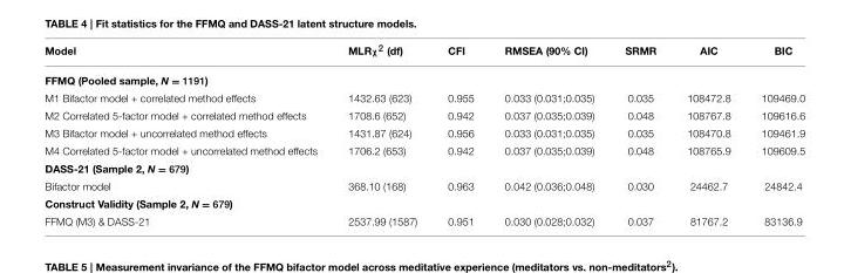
<table><thead><tr><td>Model</td><td>MLRχ<sup>2</sup> (df)</td><td>CFI</td><td>RMSEA (90% CI)</td><td>SRMR</td><td>AIC</td><td>BIC</td></tr></thead><tbody><tr><td colspan="7">FFMQ (Pooled sample, N = 1191)</td></tr><tr><td>M1 Bifactor model + correlated method effects</td><td>1432.63 (623)</td><td>0.955</td><td>0.033 (0.031;0.035)</td><td>0.035</td><td>108472.8</td><td>109469.0</td></tr><tr><td>M2 Correlated 5-factor model + correlated method effects</td><td>1708.6 (652)</td><td>0.942</td><td>0.037 (0.035;0.039)</td><td>0.048</td><td>108767.8</td><td>109616.6</td></tr><tr><td>M3 Bifactor model + uncorrelated method effects</td><td>1431.87 (624)</td><td>0.956</td><td>0.033 (0.031;0.035)</td><td>0.035</td><td>108470.8</td><td>109461.9</td></tr><tr><td>M4 Correlated 5-factor model + uncorrelated method effects</td><td>1706.2 (653)</td><td>0.942</td><td>0.037 (0.035;0.039)</td><td>0.048</td><td>108765.9</td><td>109609.5</td></tr><tr><td colspan="7">DASS-21 (Sample 2, N = 679)</td></tr><tr><td>Bifactor model</td><td>368.10 (168)</td><td>0.963</td><td>0.042 (0.036;0.048)</td><td>0.030</td><td>24462.7</td><td>24842.4</td></tr><tr><td colspan="7">Construct Validity (Sample 2, N = 679)</td></tr><tr><td>FFMQ (M3) &amp; DASS-21</td><td>2537.99 (1587)</td><td>0.951</td><td>0.030 (0.028;0.032)</td><td>0.037</td><td>81767.2</td><td>83136.9</td></tr></tbody></table>